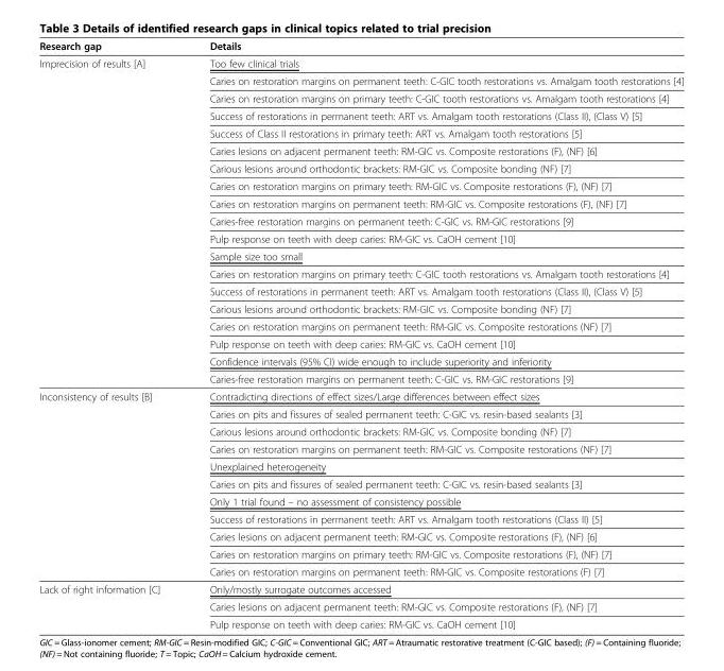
<table><thead><tr><td>Research gap</td><td>Details</td></tr></thead><tbody><tr><td rowspan="19">Imprecision of results [A]</td><td>Too few clinical trials</td></tr><tr><td>Caries on restoration margins on permanent teeth: C-GIC tooth restorations vs. Amalgam tooth restorations [4]</td></tr><tr><td>Caries on restoration margins on primary teeth: C-GIC tooth restorations vs. Amalgam tooth restorations [4]</td></tr><tr><td>Success of restorations in permanent teeth: ART vs. Amalgam tooth restorations (Class II), (Class V) [5]</td></tr><tr><td>Success of Class II restorations in primary teeth: ART vs. Amalgam tooth restorations [5]</td></tr><tr><td>Caries lesions on adjacent permanent teeth: RM-GIC vs. Composite restorations (F), (NF) [6]</td></tr><tr><td>Carious lesions around orthodontic brackets: RM-GIC vs. Composite bonding (NF) [7]</td></tr><tr><td>Caries on restoration margins on primary teeth: RM-GIC vs. Composite restorations (F), (NF) [7]</td></tr><tr><td>Caries on restoration margins on permanent teeth: RM-GIC vs. Composite restorations (F), (NF) [7]</td></tr><tr><td>Caries-free restoration margins on permanent teeth: C-GIC vs. RM-GIC restorations [9]</td></tr><tr><td>Pulp response on teeth with deep caries: RM-GIC vs. CaOH cement [10]</td></tr><tr><td>Sample size too small</td></tr><tr><td>Caries on restoration margins on primary teeth: C-GIC tooth restorations vs. Amalgam tooth restorations [4]</td></tr><tr><td>Success of restorations in permanent teeth: ART vs. Amalgam tooth restorations (Class II), (Class V) [5]</td></tr><tr><td>Carious lesions around orthodontic brackets: RM-GIC vs. Composite bonding (NF) [7]</td></tr><tr><td>Caries on restoration margins on permanent teeth: RM-GIC vs. Composite restorations (NF) [7]</td></tr><tr><td>Pulp response on teeth with deep caries: RM-GIC vs. CaOH cement [10]</td></tr><tr><td>Confidence intervals (95% CI) wide enough to include superiority and inferiority</td></tr><tr><td>Caries-free restoration margins on permanent teeth: C-GIC vs. RM-GIC restorations [9]</td></tr><tr><td rowspan="11">Inconsistency of results [B]</td><td>Contradicting directions of effect sizes/Large differences between effect sizes</td></tr><tr><td>Caries on pits and fissures of sealed permanent teeth: C-GIC vs. resin-based sealants [3]</td></tr><tr><td>Carious lesions around orthodontic brackets: RM-GIC vs. Composite bonding (NF) [7]</td></tr><tr><td>Caries on restoration margins on permanent teeth: RM-GIC vs. Composite restorations (NF) [7]</td></tr><tr><td>Unexplained heterogeneity</td></tr><tr><td>Caries on pits and fissures of sealed permanent teeth: C-GIC vs. resin-based sealants [3]</td></tr><tr><td>Only 1 trial found – no assessment of consistency possible</td></tr><tr><td>Success of restorations in permanent teeth: ART vs. Amalgam tooth restorations (Class II) [5]</td></tr><tr><td>Caries lesions on adjacent permanent teeth: RM-GIC vs. Composite restorations (F), (NF) [6]</td></tr><tr><td>Caries on restoration margins on primary teeth: RM-GIC vs. Composite restorations (F), (NF) [7]</td></tr><tr><td>Caries on restoration margins on permanent teeth: RM-GIC vs. Composite restorations (F) [7]</td></tr><tr><td rowspan="3">Lack of right information [C]</td><td>Only/mostly surrogate outcomes accessed</td></tr><tr><td>Caries lesions on adjacent permanent teeth: RM-GIC vs. Composite restorations (F), (NF) [7]</td></tr><tr><td>Pulp response on teeth with deep caries: RM-GIC vs. CaOH cement [10]</td></tr></tbody></table>